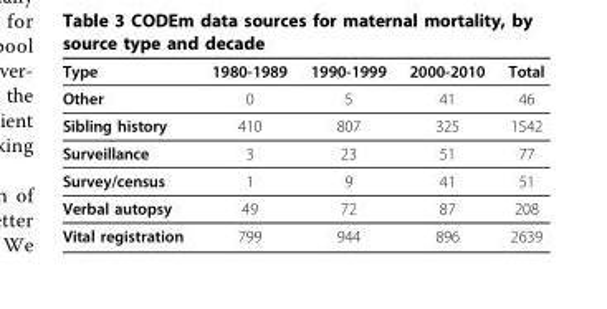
<table><thead><tr><td>Type</td><td>1980-1989</td><td>1990-1999</td><td>2000-2010</td><td>Total</td></tr></thead><tbody><tr><td>Other</td><td>0</td><td>5</td><td>41</td><td>46</td></tr><tr><td>Sibling history</td><td>410</td><td>807</td><td>325</td><td>1542</td></tr><tr><td>Surveillance</td><td>3</td><td>23</td><td>51</td><td>77</td></tr><tr><td>Survey/census</td><td>1</td><td>9</td><td>41</td><td>51</td></tr><tr><td>Verbal autopsy</td><td>49</td><td>72</td><td>87</td><td>208</td></tr><tr><td>Vital registration</td><td>799</td><td>944</td><td>896</td><td>2639</td></tr></tbody></table>